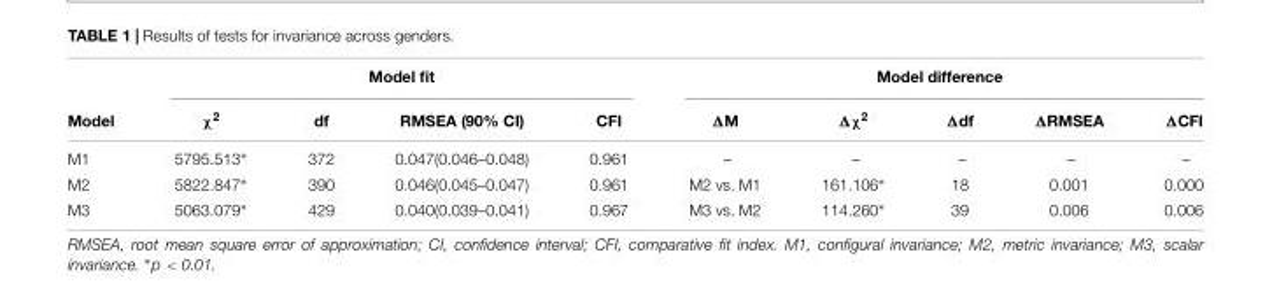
<table><thead><tr><td rowspan="2">Model</td><td colspan="4">Model fit</td><td colspan="5">Model difference</td></tr><tr><td>χ<sup>2</sup></td><td>df</td><td>RMSEA (90% CI)</td><td>CFI</td><td>ΔM</td><td>Δχ<sup>2</sup></td><td>Δdf</td><td>ΔRMSEA</td><td>ΔCFI</td></tr></thead><tbody><tr><td>M1</td><td>5795.513∗</td><td>372</td><td>0.047(0.046–0.048)</td><td>0.961</td><td>–</td><td>–</td><td>–</td><td>–</td><td>–</td></tr><tr><td>M2</td><td>5822.847∗</td><td>390</td><td>0.046(0.045–0.047)</td><td>0.961</td><td>M2 vs. M1</td><td>161.106∗</td><td>18</td><td>0.001</td><td>0.000</td></tr><tr><td>M3</td><td>5063.079∗</td><td>429</td><td>0.040(0.039–0.041)</td><td>0.967</td><td>M3 vs. M2</td><td>114.260∗</td><td>39</td><td>0.006</td><td>0.006</td></tr></tbody></table>